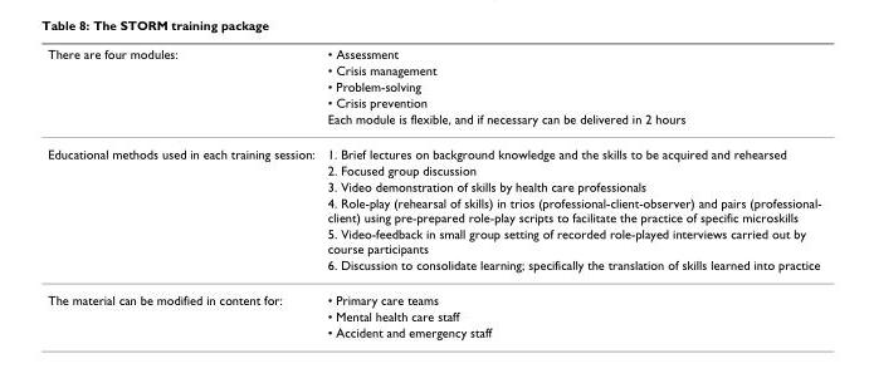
<table><thead><tr><td rowspan="5">There are four modules:</td><td rowspan="5">• Assessment • Crisis management • Problem-solving • Crisis prevention Each module is flexible, and if necessary can be delivered in 2 hours</td></tr><tr></tr><tr></tr><tr></tr><tr></tr></thead><tbody><tr><td rowspan="6">Educational methods used in each training session:</td><td>1. Brief lectures on background knowledge and the skills to be acquired and rehearsed</td></tr><tr><td>2. Focused group discussion</td></tr><tr><td>3. Video demonstration of skills by health care professionals</td></tr><tr><td>4. Role-play (rehearsal of skills) in trios (professional-client-observer) and pairs (professional- client) using pre-prepared role-play scripts to facilitate the practice of specific microskills</td></tr><tr><td>5. Video-feedback in small group setting of recorded role-played interviews carried out by course participants</td></tr><tr><td>6. Discussion to consolidate learning; specifically the translation of skills learned into practice</td></tr><tr><td rowspan="3">The material can be modified in content for:</td><td>• Primary care teams</td></tr><tr><td>• Mental health care staff</td></tr><tr><td>• Accident and emergency staff</td></tr></tbody></table>